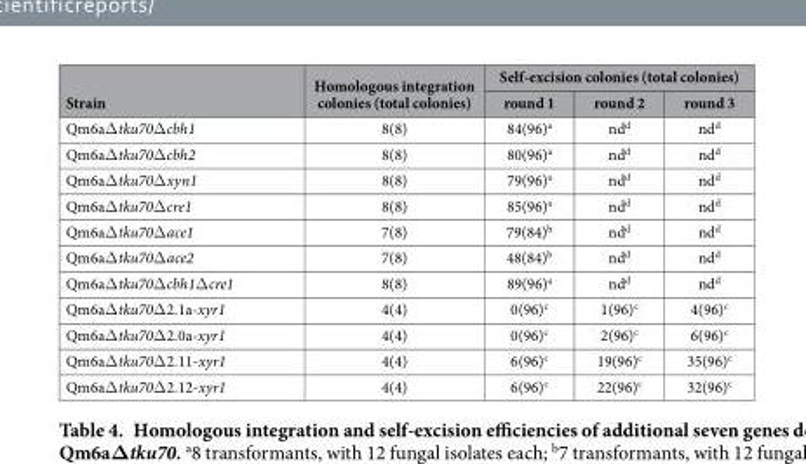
<table><thead><tr><td rowspan="2">Strain</td><td rowspan="2">Homologous integration colonies (total colonies)</td><td colspan="3">Self-excision colonies (total colonies)</td></tr><tr><td>round 1</td><td>round 2</td><td>round 3</td></tr></thead><tbody><tr><td>Qm6aΔ tku70Δ cbh1</td><td>8(8)</td><td>84(96)<sup>a</sup></td><td>nd<sup>d</sup></td><td>nd<sup>d</sup></td></tr><tr><td>Qm6aΔ tku70Δ cbh2</td><td>8(8)</td><td>80(96)<sup>a</sup></td><td>nd<sup>d</sup></td><td>nd<sup>d</sup></td></tr><tr><td>Qm6aΔ tku70Δ xyn1</td><td>8(8)</td><td>79(96)<sup>a</sup></td><td>nd<sup>d</sup></td><td>nd<sup>d</sup></td></tr><tr><td>Qm6aΔ tku70Δ cre1</td><td>8(8)</td><td>85(96)<sup>a</sup></td><td>nd<sup>d</sup></td><td>nd<sup>d</sup></td></tr><tr><td>Qm6aΔ tku70Δ ace1</td><td>7(8)</td><td>79(84)<sup>b</sup></td><td>nd<sup>d</sup></td><td>nd<sup>d</sup></td></tr><tr><td>Qm6aΔ tku70Δ ace2</td><td>7(8)</td><td>48(84)<sup>b</sup></td><td>nd<sup>d</sup></td><td>nd<sup>d</sup></td></tr><tr><td>Qm6aΔ tku70Δ cbh1Δ cre1</td><td>8(8)</td><td>89(96)<sup>a</sup></td><td>nd<sup>d</sup></td><td>nd<sup>d</sup></td></tr><tr><td>Qm6aΔ tku70Δ 2.1a-xyr1</td><td>4(4)</td><td>0(96)<sup>c</sup></td><td>1(96)<sup>c</sup></td><td>4(96)<sup>c</sup></td></tr><tr><td>Qm6aΔ tku70Δ 2.0a-xyr1</td><td>4(4)</td><td>0(96)<sup>c</sup></td><td>2(96)<sup>c</sup></td><td>6(96)<sup>c</sup></td></tr><tr><td>Qm6aΔ tku70Δ 2.11-xyr1</td><td>4(4)</td><td>6(96)<sup>c</sup></td><td>19(96)<sup>c</sup></td><td>35(96)<sup>c</sup></td></tr><tr><td>Qm6aΔ tku70Δ 2.12-xyr1</td><td>4(4)</td><td>6(96)<sup>c</sup></td><td>22(96)<sup>c</sup></td><td>32(96)<sup>c</sup></td></tr></tbody></table>